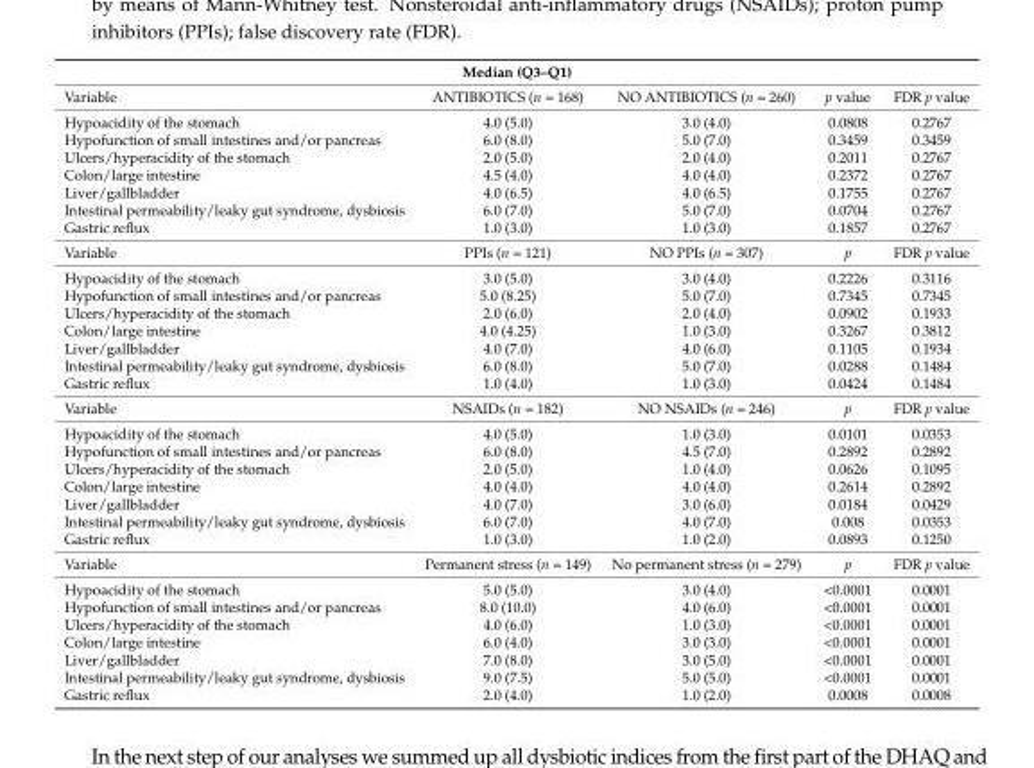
<table><thead><tr><td colspan="5">Median (Q3–Q1)</td></tr><tr><td>Variable</td><td>ANTIBIOTICS (n = 168)</td><td>NO ANTIBIOTICS (n = 260)</td><td>p value</td><td>FDR p value</td></tr></thead><tbody><tr><td>Hypoacidity of the stomach</td><td>4.0 (5.0)</td><td>3.0 (4.0)</td><td>0.0808</td><td>0.2767</td></tr><tr><td>Hypofunction of small intestines and/or pancreas</td><td>6.0 (8.0)</td><td>5.0 (7.0)</td><td>0.3459</td><td>0.3459</td></tr><tr><td>Ulcers/hyperacidity of the stomach</td><td>2.0 (5.0)</td><td>2.0 (4.0)</td><td>0.2011</td><td>0.2767</td></tr><tr><td>Colon/large intestine</td><td>4.5 (4.0)</td><td>4.0 (4.0)</td><td>0.2372</td><td>0.2767</td></tr><tr><td>Liver/gallbladder</td><td>4.0 (6.5)</td><td>4.0 (6.5)</td><td>0.1755</td><td>0.2767</td></tr><tr><td>Intestinal permeability/leaky gut syndrome, dysbiosis</td><td>6.0 (7.0)</td><td>5.0 (7.0)</td><td>0.0704</td><td>0.2767</td></tr><tr><td>Gastric reflux</td><td>1.0 (3.0)</td><td>1.0 (3.0)</td><td>0.1857</td><td>0.2767</td></tr><tr><td>Variable</td><td>PPIs (n = 121)</td><td>NO PPIs (n = 307)</td><td>p</td><td>FDR p value</td></tr><tr><td>Hypoacidity of the stomach</td><td>3.0 (5.0)</td><td>3.0 (4.0)</td><td>0.2226</td><td>0.3116</td></tr><tr><td>Hypofunction of small intestines and/or pancreas</td><td>5.0 (8.25)</td><td>5.0 (7.0)</td><td>0.7345</td><td>0.7345</td></tr><tr><td>Ulcers/hyperacidity of the stomach</td><td>2.0 (6.0)</td><td>2.0 (4.0)</td><td>0.0902</td><td>0.1933</td></tr><tr><td>Colon/large intestine</td><td>4.0 (4.25)</td><td>1.0 (3.0)</td><td>0.3267</td><td>0.3812</td></tr><tr><td>Liver/gallbladder</td><td>4.0 (7.0)</td><td>4.0 (6.0)</td><td>0.1105</td><td>0.1934</td></tr><tr><td>Intestinal permeability/leaky gut syndrome, dysbiosis</td><td>6.0 (8.0)</td><td>5.0 (7.0)</td><td>0.0288</td><td>0.1484</td></tr><tr><td>Gastric reflux</td><td>1.0 (4.0)</td><td>1.0 (3.0)</td><td>0.0424</td><td>0.1484</td></tr><tr><td>Variable</td><td>NSAIDs (n = 182)</td><td>NO NSAIDs (n = 246)</td><td>p</td><td>FDR p value</td></tr><tr><td>Hypoacidity of the stomach</td><td>4.0 (5.0)</td><td>1.0 (3.0)</td><td>0.0101</td><td>0.0353</td></tr><tr><td>Hypofunction of small intestines and/or pancreas</td><td>6.0 (8.0)</td><td>4.5 (7.0)</td><td>0.2892</td><td>0.2892</td></tr><tr><td>Ulcers/hyperacidity of the stomach</td><td>2.0 (5.0)</td><td>1.0 (4.0)</td><td>0.0626</td><td>0.1095</td></tr><tr><td>Colon/large intestine</td><td>4.0 (4.0)</td><td>4.0 (4.0)</td><td>0.2614</td><td>0.2892</td></tr><tr><td>Liver/gallbladder</td><td>4.0 (7.0)</td><td>3.0 (6.0)</td><td>0.0184</td><td>0.0429</td></tr><tr><td>Intestinal permeability/leaky gut syndrome, dysbiosis</td><td>6.0 (7.0)</td><td>4.0 (7.0)</td><td>0.008</td><td>0.0353</td></tr><tr><td>Gastric reflux</td><td>1.0 (3.0)</td><td>1.0 (2.0)</td><td>0.0893</td><td>0.1250</td></tr><tr><td>Variable</td><td>Permanent stress (n = 149)</td><td>No permanent stress (n = 279)</td><td>p</td><td>FDR p value</td></tr><tr><td>Hypoacidity of the stomach</td><td>5.0 (5.0)</td><td>3.0 (4.0)</td><td>&lt;0.0001</td><td>0.0001</td></tr><tr><td>Hypofunction of small intestines and/or pancreas</td><td>8.0 (10.0)</td><td>4.0 (6.0)</td><td>&lt;0.0001</td><td>0.0001</td></tr><tr><td>Ulcers/hyperacidity of the stomach</td><td>4.0 (6.0)</td><td>1.0 (3.0)</td><td>&lt;0.0001</td><td>0.0001</td></tr><tr><td>Colon/large intestine</td><td>6.0 (4.0)</td><td>3.0 (3.0)</td><td>&lt;0.0001</td><td>0.0001</td></tr><tr><td>Liver/gallbladder</td><td>7.0 (8.0)</td><td>3.0 (5.0)</td><td>&lt;0.0001</td><td>0.0001</td></tr><tr><td>Intestinal permeability/leaky gut syndrome, dysbiosis</td><td>9.0 (7.5)</td><td>5.0 (5.0)</td><td>&lt;0.0001</td><td>0.0001</td></tr><tr><td>Gastric reflux</td><td>2.0 (4.0)</td><td>1.0 (2.0)</td><td>0.0008</td><td>0.0008</td></tr></tbody></table>